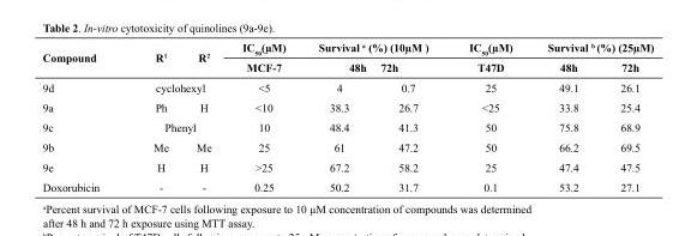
<table><thead><tr><td rowspan="3">Compound 9d</td><td rowspan="2">R<sup>1</sup></td><td rowspan="2">R<sup>2</sup></td><td rowspan="3">IC<sub>50</sub>(µM) MCF-7 &lt;5</td><td rowspan="2" colspan="2">Survival a (%) (10µM ) 48h 72h</td><td rowspan="3">IC50(µM) T47D 25</td><td rowspan="2" colspan="2">Survival b (%) (25µM) 48h 72h</td></tr><tr></tr><tr><td colspan="2">cyclohexyl</td><td>4</td><td>0.7</td><td>49.1</td><td>26.1</td></tr></thead><tbody><tr><td>9a</td><td>Ph</td><td>H</td><td>&lt;10</td><td>38.3</td><td>26.7</td><td>&lt;25</td><td>33.8</td><td>25.4</td></tr><tr><td>9c</td><td colspan="2">Phenyl</td><td>10</td><td>48.4</td><td>41.3</td><td>50</td><td>75.8</td><td>68.9</td></tr><tr><td>9b</td><td>Me</td><td>Me</td><td>25</td><td>61</td><td>47.2</td><td>50</td><td>66.2</td><td>69.5</td></tr><tr><td>9e</td><td>H</td><td>H</td><td>&gt;25</td><td>67.2</td><td>58.2</td><td>25</td><td>47.4</td><td>47.5</td></tr><tr><td>Doxorubicin</td><td>-</td><td>-</td><td>0.25</td><td>50.2</td><td>31.7</td><td>0.1</td><td>53.2</td><td>27.1</td></tr></tbody></table>